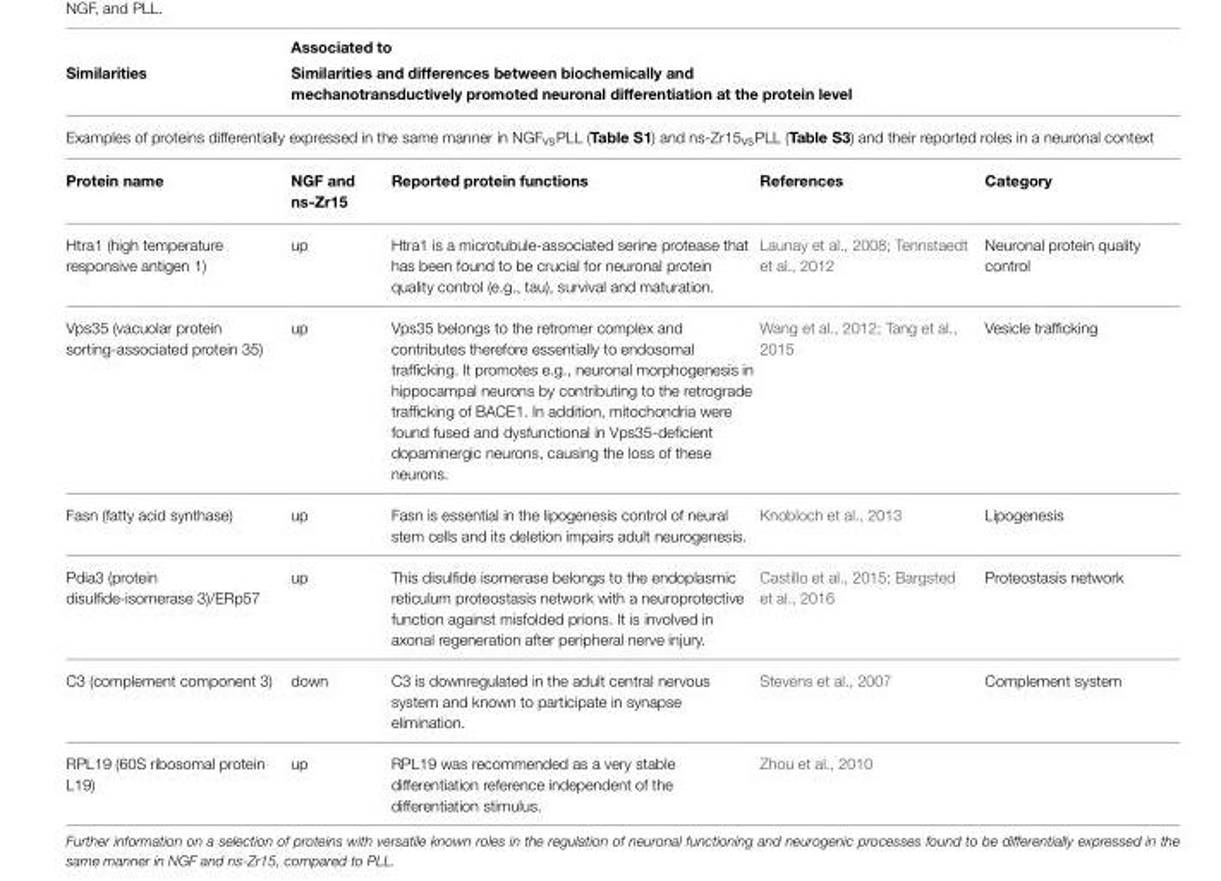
<table><thead><tr><td>Similarities</td><td colspan="4">Similarities and differences between biochemically and mechanotransductively promoted neuronal differentiation at the protein level</td></tr><tr><td colspan="5">Examples of proteins differentially expressed in the same manner in NGF<sub>vs</sub>PLL (Table S1) and ns-Zr15<sub>vs</sub>PLL (Table S3) and their reported roles in a neuronal context</td></tr><tr><td>Protein name</td><td>NGF and ns-Zr15</td><td>Reported protein functions</td><td>References</td><td>Category</td></tr></thead><tbody><tr><td>Htra1 (high temperature responsive antigen 1)</td><td>up</td><td>Htra1 is a microtubule-associated serine protease that has been found to be crucial for neuronal protein quality control (e.g., tau), survival and maturation.</td><td>Launay et al., 2008; Tennstaedt et al., 2012</td><td>Neuronal protein quality control</td></tr><tr><td>Vps35 (vacuolar protein sorting-associated protein 35)</td><td>up</td><td>Vps35 belongs to the retromer complex and contributes therefore essentially to endosomal trafficking. It promotes e.g., neuronal morphogenesis in hippocampal neurons by contributing to the retrograde trafficking of BACE1. In addition, mitochondria were found fused and dysfunctional in Vps35-deficient dopaminergic neurons, causing the loss of these neurons.</td><td>Wang et al., 2012; Tang et al., 2015</td><td>Vesicle trafficking</td></tr><tr><td>Fasn (fatty acid synthase)</td><td>up</td><td>Fasn is essential in the lipogenesis control of neural stem cells and its deletion impairs adult neurogenesis.</td><td>Knobloch et al., 2013</td><td>Lipogenesis</td></tr><tr><td>Pdia3 (protein disulfide-isomerase 3)/ERp57</td><td>up</td><td>This disulfide isomerase belongs to the endoplasmic reticulum proteostasis network with a neuroprotective function against misfolded prions. It is involved in axonal regeneration after peripheral nerve injury.</td><td>Castillo et al., 2015; Bargsted et al., 2016</td><td>Proteostasis network</td></tr><tr><td>C3 (complement component 3)</td><td>down</td><td>C3 is downregulated in the adult central nervous system and known to participate in synapse elimination.</td><td>Stevens et al., 2007</td><td>Complement system</td></tr><tr><td>RPL19 (60S ribosomal protein L19)</td><td>up</td><td>RPL19 was recommended as a very stable differentiation reference independent of the differentiation stimulus.</td><td>Zhou et al., 2010</td><td></td></tr></tbody></table>